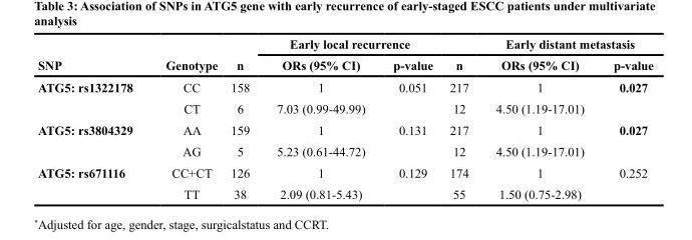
<table><thead><tr><td rowspan="2">SNP</td><td rowspan="2">Genotype</td><td rowspan="2">n</td><td colspan="2">Early local recurrence</td><td rowspan="2">n</td><td colspan="2">Early distant metastasis</td></tr><tr><td>ORs (95% CI)</td><td>p-value</td><td>ORs (95% CI)</td><td>p-value</td></tr></thead><tbody><tr><td rowspan="2">ATG5: rs1322178</td><td>CC</td><td>158</td><td>1</td><td>0.051</td><td>217</td><td>1</td><td>0.027</td></tr><tr><td>CT</td><td>6</td><td>7.03 (0.99-49.99)</td><td></td><td>12</td><td>4.50 (1.19-17.01)</td><td></td></tr><tr><td rowspan="2">ATG5: rs3804329</td><td>AA</td><td>159</td><td>1</td><td>0.131</td><td>217</td><td>1</td><td>0.027</td></tr><tr><td>AG</td><td>5</td><td>5.23 (0.61-44.72)</td><td></td><td>12</td><td>4.50 (1.19-17.01)</td><td></td></tr><tr><td rowspan="2">ATG5: rs671116</td><td>CC+CT</td><td>126</td><td>1</td><td>0.129</td><td>174</td><td>1</td><td>0.252</td></tr><tr><td>TT</td><td>38</td><td>2.09 (0.81-5.43)</td><td></td><td>55</td><td>1.50 (0.75-2.98)</td><td></td></tr></tbody></table>